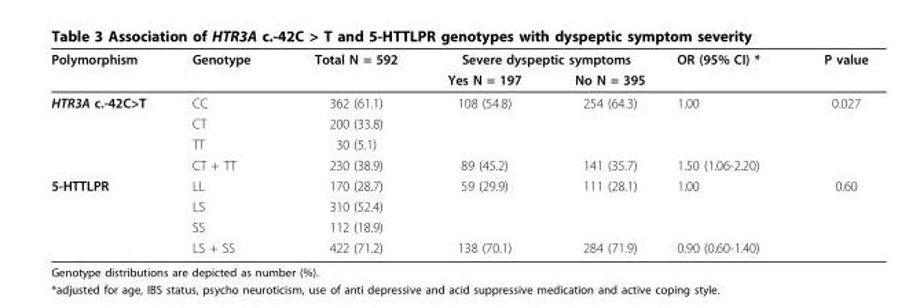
<table><thead><tr><td rowspan="2">Polymorphism</td><td rowspan="2">Genotype</td><td rowspan="2">Total N = 592</td><td colspan="2">Severe dyspeptic symptoms</td><td rowspan="2">OR (95% CI) *</td><td rowspan="2">P value</td></tr><tr><td>Yes N = 197</td><td>No N = 395</td></tr></thead><tbody><tr><td rowspan="4">HTR3A c.-42C&gt;T</td><td>CC</td><td>362 (61.1)</td><td>108 (54.8)</td><td>254 (64.3)</td><td>1.00</td><td>0.027</td></tr><tr><td>CT</td><td>200 (33.8)</td><td></td><td></td><td></td><td></td></tr><tr><td>TT</td><td>30 (5.1)</td><td></td><td></td><td></td><td></td></tr><tr><td>CT + TT</td><td>230 (38.9)</td><td>89 (45.2)</td><td>141 (35.7)</td><td>1.50 (1.06-2.20)</td><td></td></tr><tr><td rowspan="4">5-HTTLPR</td><td>LL</td><td>170 (28.7)</td><td>59 (29.9)</td><td>111 (28.1)</td><td>1.00</td><td>0.60</td></tr><tr><td>LS</td><td>310 (52.4)</td><td></td><td></td><td></td><td></td></tr><tr><td>SS</td><td>112 (18.9)</td><td></td><td></td><td></td><td></td></tr><tr><td>LS + SS</td><td>422 (71.2)</td><td>138 (70.1)</td><td>284 (71.9)</td><td>0.90 (0.60-1.40)</td><td></td></tr></tbody></table>